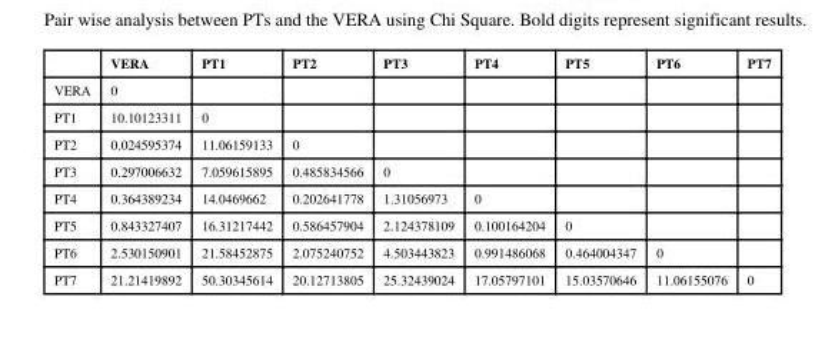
<table><thead><tr><td></td><td>VERA</td><td>PT1</td><td>PT2</td><td>PT3</td><td>PT4</td><td>PT5</td><td>PT6</td><td>PT7</td></tr></thead><tbody><tr><td>VERA</td><td>0</td><td></td><td></td><td></td><td></td><td></td><td></td><td></td></tr><tr><td>PT1</td><td>10.10123311</td><td>0</td><td></td><td></td><td></td><td></td><td></td><td></td></tr><tr><td>PT2</td><td>0.024595374</td><td>11.06159133</td><td>0</td><td></td><td></td><td></td><td></td><td></td></tr><tr><td>PT3</td><td>0.297006632</td><td>7.059615895</td><td>0.485834566</td><td>0</td><td></td><td></td><td></td><td></td></tr><tr><td>PT4</td><td>0.364389234</td><td>14.0469662</td><td>0.202641778</td><td>1.31056973</td><td>0</td><td></td><td></td><td></td></tr><tr><td>PT5</td><td>0.843327407</td><td>16.31217442</td><td>0.586457904</td><td>2.124378109</td><td>0.100164204</td><td>0</td><td></td><td></td></tr><tr><td>PT6</td><td>2.530150901</td><td>21.58452875</td><td>2.075240752</td><td>4.503443823</td><td>0.991486068</td><td>0.464004347</td><td>0</td><td></td></tr><tr><td>PT7</td><td>21.21419892</td><td>50.30345614</td><td>20.12713805</td><td>25.32439024</td><td>17.05797101</td><td>15.03570646</td><td>11.06155076</td><td>0</td></tr></tbody></table>